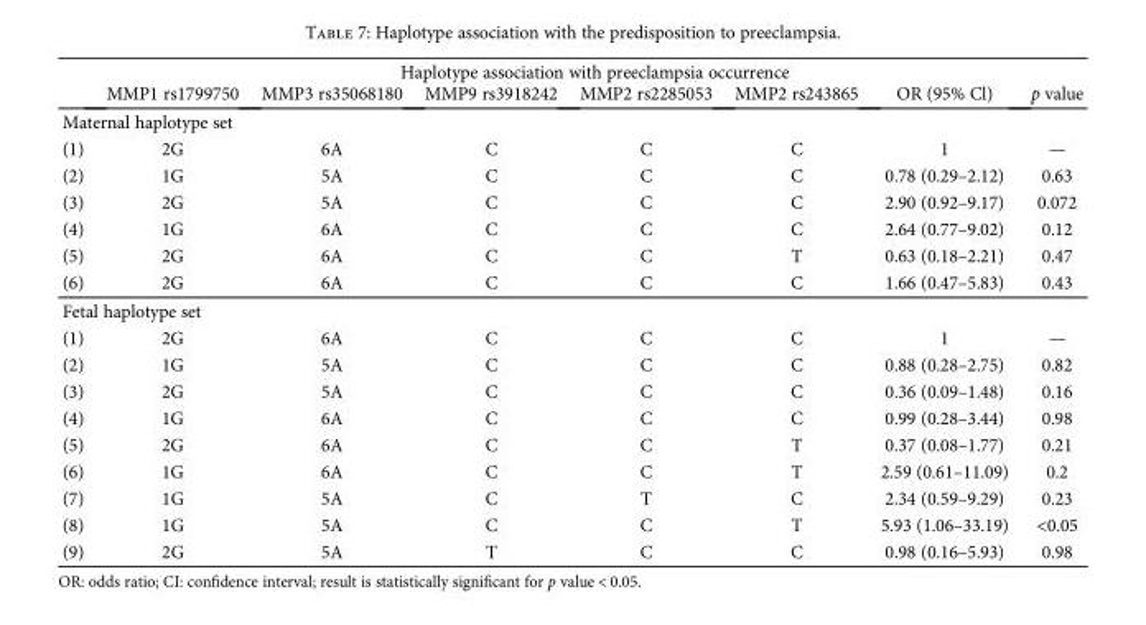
<table><thead><tr><td rowspan="2"></td><td colspan="7">Haplotype association with preeclampsia occurrence</td></tr><tr><td>MMP1 rs1799750</td><td>MMP3 rs35068180</td><td>MMP9 rs3918242</td><td>MMP2 rs2285053</td><td>MMP2 rs243865</td><td>OR (95% Cl)</td><td>p value</td></tr></thead><tbody><tr><td colspan="8">Maternal haplotype set</td></tr><tr><td>(1)</td><td>2G</td><td>6A</td><td>C</td><td>C</td><td>C</td><td>1</td><td>—</td></tr><tr><td>(2)</td><td>1G</td><td>5A</td><td>C</td><td>C</td><td>C</td><td>0.78 (0.29–2.12)</td><td>0.63</td></tr><tr><td>(3)</td><td>2G</td><td>5A</td><td>C</td><td>C</td><td>C</td><td>2.90 (0.92–9.17)</td><td>0.072</td></tr><tr><td>(4)</td><td>1G</td><td>6A</td><td>C</td><td>C</td><td>C</td><td>2.64 (0.77–9.02)</td><td>0.12</td></tr><tr><td>(5)</td><td>2G</td><td>6A</td><td>C</td><td>C</td><td>T</td><td>0.63 (0.18–2.21)</td><td>0.47</td></tr><tr><td>(6)</td><td>2G</td><td>6A</td><td>C</td><td>C</td><td>C</td><td>1.66 (0.47–5.83)</td><td>0.43</td></tr><tr><td colspan="8">Fetal haplotype set</td></tr><tr><td>(1)</td><td>2G</td><td>6A</td><td>C</td><td>C</td><td>C</td><td>1</td><td>—</td></tr><tr><td>(2)</td><td>1G</td><td>5A</td><td>C</td><td>C</td><td>C</td><td>0.88 (0.28–2.75)</td><td>0.82</td></tr><tr><td>(3)</td><td>2G</td><td>5A</td><td>C</td><td>C</td><td>C</td><td>0.36 (0.09–1.48)</td><td>0.16</td></tr><tr><td>(4)</td><td>1G</td><td>6A</td><td>C</td><td>C</td><td>C</td><td>0.99 (0.28–3.44)</td><td>0.98</td></tr><tr><td>(5)</td><td>2G</td><td>6A</td><td>C</td><td>C</td><td>T</td><td>0.37 (0.08–1.77)</td><td>0.21</td></tr><tr><td>(6)</td><td>1G</td><td>6A</td><td>C</td><td>C</td><td>T</td><td>2.59 (0.61–11.09)</td><td>0.2</td></tr><tr><td>(7)</td><td>1G</td><td>5A</td><td>C</td><td>T</td><td>C</td><td>2.34 (0.59–9.29)</td><td>0.23</td></tr><tr><td>(8)</td><td>1G</td><td>5A</td><td>C</td><td>C</td><td>T</td><td>5.93 (1.06–33.19)</td><td>&lt;0.05</td></tr><tr><td>(9)</td><td>2G</td><td>5A</td><td>T</td><td>C</td><td>C</td><td>0.98 (0.16–5.93)</td><td>0.98</td></tr></tbody></table>